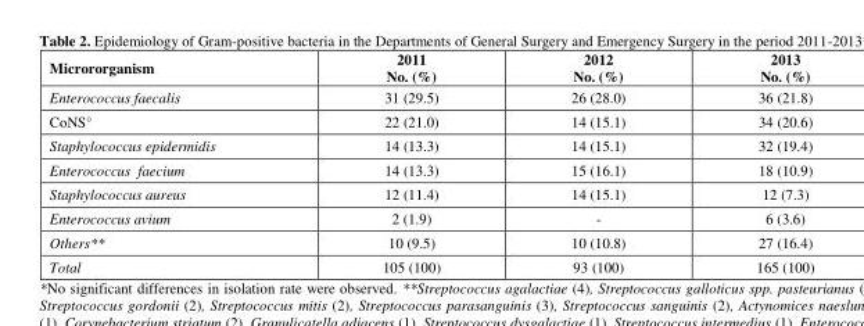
<table><thead><tr><td>Micrororganism</td><td>2011 No. (%)</td><td>2012 No. (%)</td><td>2013 No. (%)</td></tr></thead><tbody><tr><td>Enterococcus faecalis</td><td>31 (29.5)</td><td>26 (28.0)</td><td>36 (21.8)</td></tr><tr><td>CoNS°</td><td>22 (21.0)</td><td>14 (15.1)</td><td>34 (20.6)</td></tr><tr><td>Staphylococcus epidermidis</td><td>14 (13.3)</td><td>14 (15.1)</td><td>32 (19.4)</td></tr><tr><td>Enterococcus faecium</td><td>14 (13.3)</td><td>15 (16.1)</td><td>18 (10.9)</td></tr><tr><td>Staphylococcus aureus</td><td>12 (11.4)</td><td>14 (15.1)</td><td>12 (7.3)</td></tr><tr><td>Enterococcus avium</td><td>2 (1.9)</td><td>-</td><td>6 (3.6)</td></tr><tr><td>Others**</td><td>10 (9.5)</td><td>10 (10.8)</td><td>27 (16.4)</td></tr><tr><td>Total</td><td>105 (100)</td><td>93 (100)</td><td>165 (100)</td></tr></tbody></table>